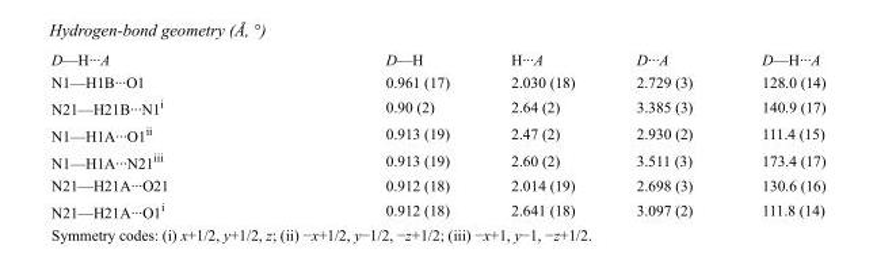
<table><tbody><tr><td>D—H···A</td><td>D—H</td><td>H···A</td><td>D···A</td><td>D—H···A</td></tr><tr><td>N1—H1B···O1</td><td>0.961 (17)</td><td>2.030 (18)</td><td>2.729 (3)</td><td>128.0 (14)</td></tr><tr><td>N21—H21B···N1<sup>i</sup></td><td>0.90 (2)</td><td>2.64 (2)</td><td>3.385 (3)</td><td>140.9 (17)</td></tr><tr><td>N1—H1A···O1<sup>ii</sup></td><td>0.913 (19)</td><td>2.47 (2)</td><td>2.930 (2)</td><td>111.4 (15)</td></tr><tr><td>N1—H1A···N21<sup>iii</sup></td><td>0.913 (19)</td><td>2.60 (2)</td><td>3.511 (3)</td><td>173.4 (17)</td></tr><tr><td>N21—H21A···O21</td><td>0.912 (18)</td><td>2.014 (19)</td><td>2.698 (3)</td><td>130.6 (16)</td></tr><tr><td>N21—H21A···O1<sup>i</sup></td><td>0.912 (18)</td><td>2.641 (18)</td><td>3.097 (2)</td><td>111.8 (14)</td></tr></tbody></table>